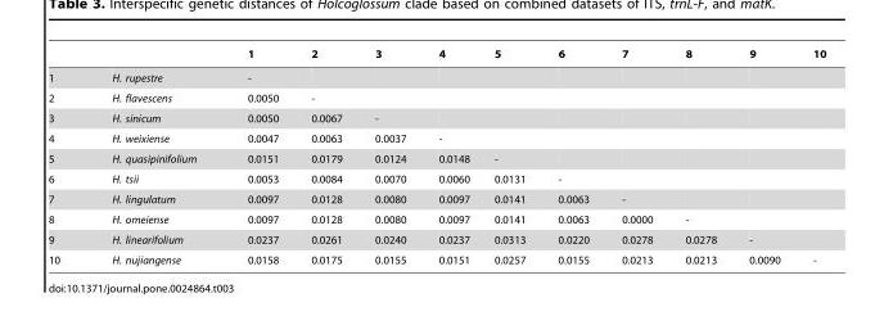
<table><thead><tr><td></td><td></td><td>1</td><td>2</td><td>3</td><td>4</td><td>5</td><td>6</td><td>7</td><td>8</td><td>9</td><td>10</td></tr></thead><tbody><tr><td>1</td><td>H. rupestre</td><td>-</td><td></td><td></td><td></td><td></td><td></td><td></td><td></td><td></td><td></td></tr><tr><td>2</td><td>H. flavescens</td><td>0.0050</td><td>-</td><td></td><td></td><td></td><td></td><td></td><td></td><td></td><td></td></tr><tr><td>3</td><td>H. sinicum</td><td>0.0050</td><td>0.0067</td><td>-</td><td></td><td></td><td></td><td></td><td></td><td></td><td></td></tr><tr><td>4</td><td>H. weixiense</td><td>0.0047</td><td>0.0063</td><td>0.0037</td><td>-</td><td></td><td></td><td></td><td></td><td></td><td></td></tr><tr><td>5</td><td>H. quasipinifolium</td><td>0.0151</td><td>0.0179</td><td>0.0124</td><td>0.0148</td><td>-</td><td></td><td></td><td></td><td></td><td></td></tr><tr><td>6</td><td>H. tsii</td><td>0.0053</td><td>0.0084</td><td>0.0070</td><td>0.0060</td><td>0.0131</td><td>-</td><td></td><td></td><td></td><td></td></tr><tr><td>7</td><td>H. lingulatum</td><td>0.0097</td><td>0.0128</td><td>0.0080</td><td>0.0097</td><td>0.0141</td><td>0.0063</td><td>-</td><td></td><td></td><td></td></tr><tr><td>8</td><td>H. omeiense</td><td>0.0097</td><td>0.0128</td><td>0.0080</td><td>0.0097</td><td>0.0141</td><td>0.0063</td><td>0.0000</td><td>-</td><td></td><td></td></tr><tr><td>9</td><td>H. linearifolium</td><td>0.0237</td><td>0.0261</td><td>0.0240</td><td>0.0237</td><td>0.0313</td><td>0.0220</td><td>0.0278</td><td>0.0278</td><td>-</td><td></td></tr><tr><td>10</td><td>H. nujiangense</td><td>0.0158</td><td>0.0175</td><td>0.0155</td><td>0.0151</td><td>0.0257</td><td>0.0155</td><td>0.0213</td><td>0.0213</td><td>0.0090</td><td>-</td></tr></tbody></table>